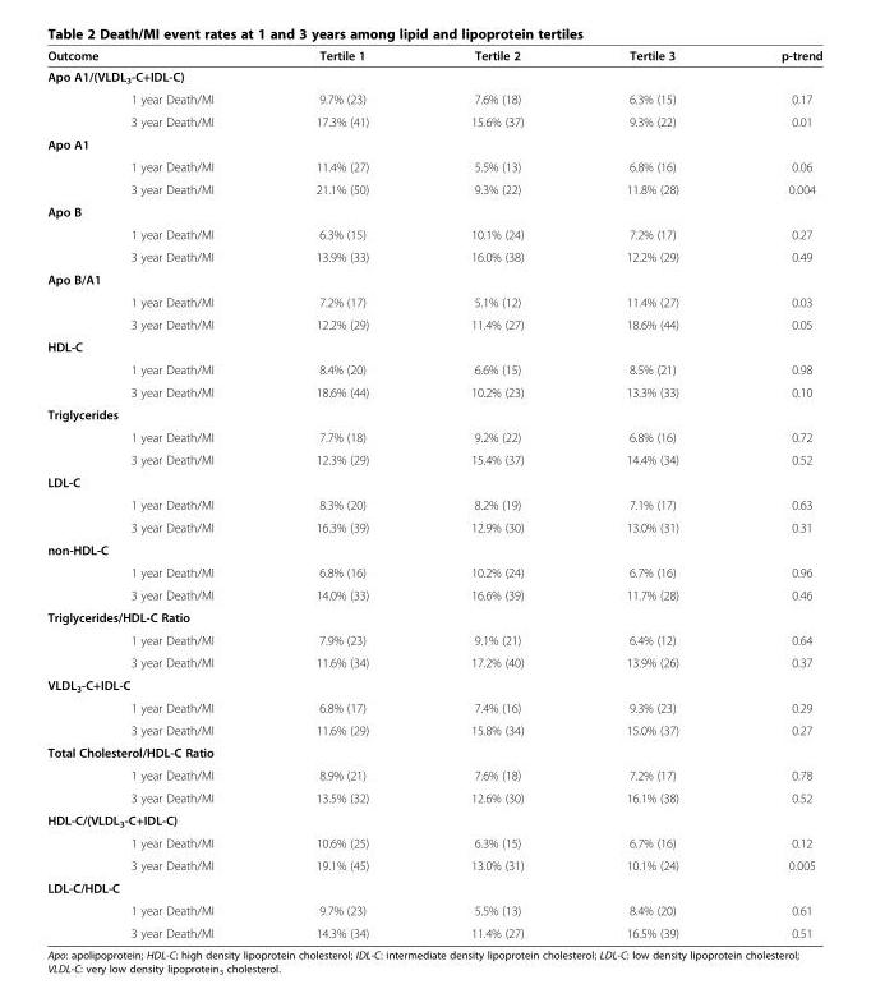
<table><thead><tr><td>Outcome</td><td>Tertile 1</td><td>Tertile 2</td><td>Tertile 3</td><td>p-trend</td></tr></thead><tbody><tr><td colspan="5">Apo A1/(VLDL<sub>3</sub>-C+IDL-C)</td></tr><tr><td>1 year Death/MI</td><td>9.7% (23)</td><td>7.6% (18)</td><td>6.3% (15)</td><td>0.17</td></tr><tr><td>3 year Death/MI</td><td>17.3% (41)</td><td>15.6% (37)</td><td>9.3% (22)</td><td>0.01</td></tr><tr><td colspan="5">Apo A1</td></tr><tr><td>1 year Death/MI</td><td>11.4% (27)</td><td>5.5% (13)</td><td>6.8% (16)</td><td>0.06</td></tr><tr><td>3 year Death/MI</td><td>21.1% (50)</td><td>9.3% (22)</td><td>11.8% (28)</td><td>0.004</td></tr><tr><td colspan="5">Apo B</td></tr><tr><td>1 year Death/MI</td><td>6.3% (15)</td><td>10.1% (24)</td><td>7.2% (17)</td><td>0.27</td></tr><tr><td>3 year Death/MI</td><td>13.9% (33)</td><td>16.0% (38)</td><td>12.2% (29)</td><td>0.49</td></tr><tr><td colspan="5">Apo B/A1</td></tr><tr><td>1 year Death/MI</td><td>7.2% (17)</td><td>5.1% (12)</td><td>11.4% (27)</td><td>0.03</td></tr><tr><td>3 year Death/MI</td><td>12.2% (29)</td><td>11.4% (27)</td><td>18.6% (44)</td><td>0.05</td></tr><tr><td colspan="5">HDL-C</td></tr><tr><td>1 year Death/MI</td><td>8.4% (20)</td><td>6.6% (15)</td><td>8.5% (21)</td><td>0.98</td></tr><tr><td>3 year Death/MI</td><td>18.6% (44)</td><td>10.2% (23)</td><td>13.3% (33)</td><td>0.10</td></tr><tr><td colspan="5">Triglycerides</td></tr><tr><td>1 year Death/MI</td><td>7.7% (18)</td><td>9.2% (22)</td><td>6.8% (16)</td><td>0.72</td></tr><tr><td>3 year Death/MI</td><td>12.3% (29)</td><td>15.4% (37)</td><td>14.4% (34)</td><td>0.52</td></tr><tr><td colspan="5">LDL-C</td></tr><tr><td>1 year Death/MI</td><td>8.3% (20)</td><td>8.2% (19)</td><td>7.1% (17)</td><td>0.63</td></tr><tr><td>3 year Death/MI</td><td>16.3% (39)</td><td>12.9% (30)</td><td>13.0% (31)</td><td>0.31</td></tr><tr><td colspan="5">non-HDL-C</td></tr><tr><td>1 year Death/MI</td><td>6.8% (16)</td><td>10.2% (24)</td><td>6.7% (16)</td><td>0.96</td></tr><tr><td>3 year Death/MI</td><td>14.0% (33)</td><td>16.6% (39)</td><td>11.7% (28)</td><td>0.46</td></tr><tr><td colspan="5">Triglycerides/HDL-C Ratio</td></tr><tr><td>1 year Death/MI</td><td>7.9% (23)</td><td>9.1% (21)</td><td>6.4% (12)</td><td>0.64</td></tr><tr><td>3 year Death/MI</td><td>11.6% (34)</td><td>17.2% (40)</td><td>13.9% (26)</td><td>0.37</td></tr><tr><td colspan="5">VLDL<sub>3</sub>-C+IDL-C</td></tr><tr><td>1 year Death/MI</td><td>6.8% (17)</td><td>7.4% (16)</td><td>9.3% (23)</td><td>0.29</td></tr><tr><td>3 year Death/MI</td><td>11.6% (29)</td><td>15.8% (34)</td><td>15.0% (37)</td><td>0.27</td></tr><tr><td colspan="5">Total Cholesterol/HDL-C Ratio</td></tr><tr><td>1 year Death/MI</td><td>8.9% (21)</td><td>7.6% (18)</td><td>7.2% (17)</td><td>0.78</td></tr><tr><td>3 year Death/MI</td><td>13.5% (32)</td><td>12.6% (30)</td><td>16.1% (38)</td><td>0.52</td></tr><tr><td colspan="5">HDL-C/(VLDL<sub>3</sub>-C+IDL-C)</td></tr><tr><td>1 year Death/MI</td><td>10.6% (25)</td><td>6.3% (15)</td><td>6.7% (16)</td><td>0.12</td></tr><tr><td>3 year Death/MI</td><td>19.1% (45)</td><td>13.0% (31)</td><td>10.1% (24)</td><td>0.005</td></tr><tr><td colspan="5">LDL-C/HDL-C</td></tr><tr><td>1 year Death/MI</td><td>9.7% (23)</td><td>5.5% (13)</td><td>8.4% (20)</td><td>0.61</td></tr><tr><td>3 year Death/MI</td><td>14.3% (34)</td><td>11.4% (27)</td><td>16.5% (39)</td><td>0.51</td></tr></tbody></table>